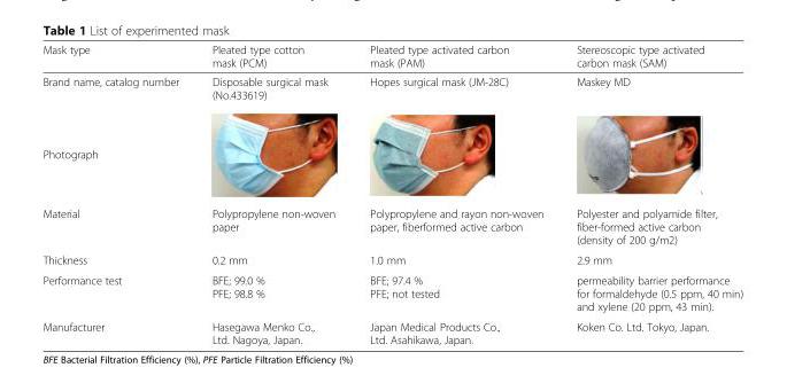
<table><thead><tr><td>Mask type</td><td>Pleated type cotton mask (PCM)</td><td>Pleated type activated carbon mask (PAM)</td><td>Stereoscopic type activated carbon mask (SAM)</td></tr></thead><tbody><tr><td>Brand name, catalog number</td><td>Disposable surgical mask (No.433619)</td><td>Hopes surgical mask (JM-28C)</td><td>Maskey MD</td></tr><tr><td colspan="4">Photograph</td></tr><tr><td>Material</td><td>Polypropylene non-woven paper</td><td>Polypropylene and rayon non-woven paper, fiberformed active carbon</td><td>Polyester and polyamide filter, fiber-formed active carbon (density of 200 g/m2)</td></tr><tr><td>Thickness</td><td>0.2 mm</td><td>1.0 mm</td><td>2.9 mm</td></tr><tr><td>Performance test</td><td>BFE; 99.0 % PFE; 98.8 %</td><td>BFE; 97.4 % PFE; not tested</td><td>permeability barrier performance for formaldehyde (0.5 ppm, 40 min) and xylene (20 ppm, 43 min).</td></tr><tr><td>Manufacturer</td><td>Hasegawa Menko Co., Ltd. Nagoya, Japan.</td><td>Japan Medical Products Co., Ltd. Asahikawa, Japan.</td><td>Koken Co. Ltd. Tokyo, Japan.</td></tr></tbody></table>